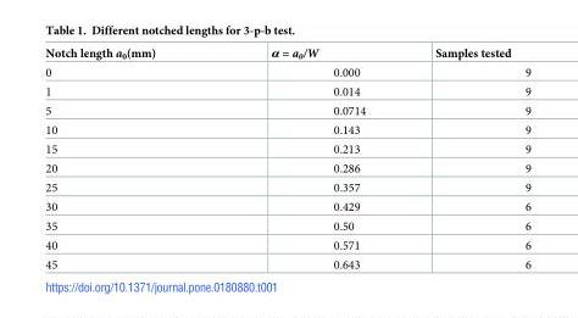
<table><thead><tr><td>Notch length a<sub>0</sub>(mm)</td><td>α = a<sub>0</sub>/W</td><td>Samples tested</td></tr></thead><tbody><tr><td>0</td><td>0.000</td><td>9</td></tr><tr><td>1</td><td>0.014</td><td>9</td></tr><tr><td>5</td><td>0.0714</td><td>9</td></tr><tr><td>10</td><td>0.143</td><td>9</td></tr><tr><td>15</td><td>0.213</td><td>9</td></tr><tr><td>20</td><td>0.286</td><td>9</td></tr><tr><td>25</td><td>0.357</td><td>9</td></tr><tr><td>30</td><td>0.429</td><td>6</td></tr><tr><td>35</td><td>0.50</td><td>6</td></tr><tr><td>40</td><td>0.571</td><td>6</td></tr><tr><td>45</td><td>0.643</td><td>6</td></tr></tbody></table>